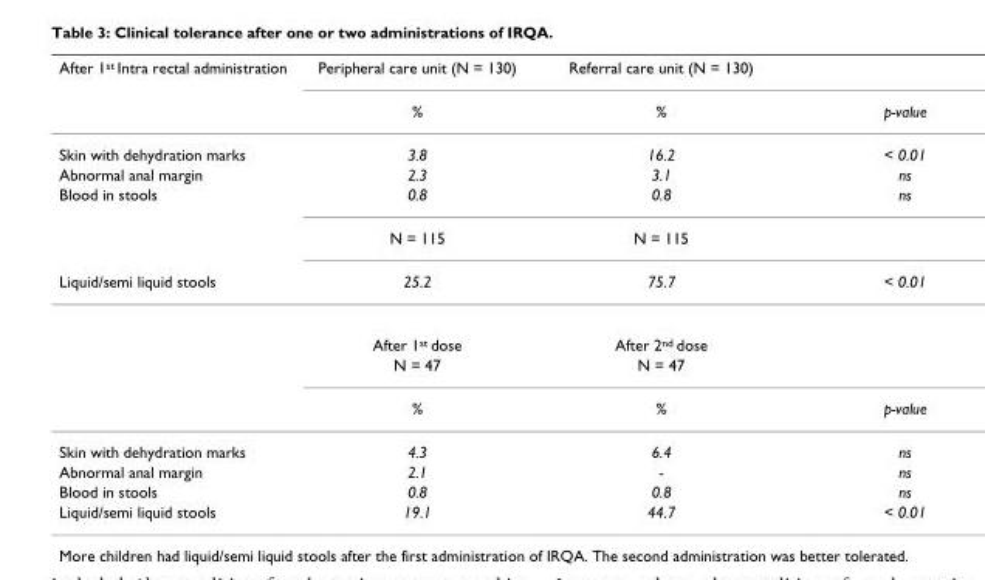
<table><thead><tr><td rowspan="2">After 1st Intra rectal administration</td><td rowspan="2">Peripheral care unit (N = 130) %</td><td rowspan="2">Referral care unit (N = 130) %</td><td rowspan="2">p-value</td></tr><tr></tr></thead><tbody><tr><td>Skin with dehydration marks</td><td>3.8</td><td>16.2</td><td>&lt; 0.01</td></tr><tr><td>Abnormal anal margin</td><td>2.3</td><td>3.1</td><td>ns</td></tr><tr><td rowspan="2">Blood in stools</td><td>0.8</td><td>0.8</td><td>ns</td></tr><tr><td>N = 115</td><td>N = 115</td><td></td></tr><tr><td rowspan="4">Liquid/semi liquid stools</td><td>25.2</td><td>75.7</td><td>&lt; 0.01</td></tr><tr><td>After 1st dose</td><td>After 2nd dose</td><td></td></tr><tr><td>N = 47</td><td>N = 47</td><td></td></tr><tr><td>%</td><td>%</td><td>p-value</td></tr><tr><td>Skin with dehydration marks</td><td>4.3</td><td>6.4</td><td>ns</td></tr><tr><td>Abnormal anal margin</td><td>2.1</td><td>-</td><td>ns</td></tr><tr><td>Blood in stools</td><td>0.8</td><td>0.8</td><td>ns</td></tr><tr><td>Liquid/semi liquid stools</td><td>19.1</td><td>44.7</td><td>&lt; 0.01</td></tr></tbody></table>